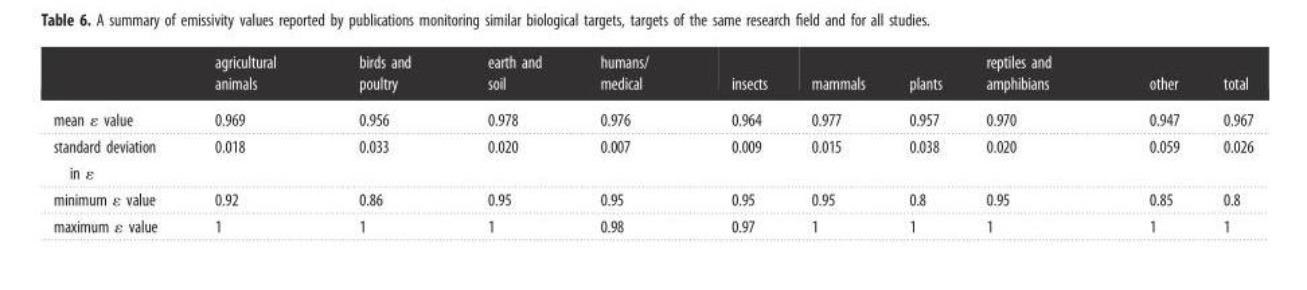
<table><thead><tr><td></td><td>agricultural animals</td><td>birds and poultry</td><td>earth and soil</td><td>humans/ medical</td><td>insects</td><td>mammals</td><td>plants</td><td>reptiles and amphibians</td><td>other</td><td>total</td></tr></thead><tbody><tr><td>mean 1 value</td><td>0.969</td><td>0.956</td><td>0.978</td><td>0.976</td><td>0.964</td><td>0.977</td><td>0.957</td><td>0.970</td><td>0.947</td><td>0.967</td></tr><tr><td>standard deviation in 1</td><td>0.018</td><td>0.033</td><td>0.020</td><td>0.007</td><td>0.009</td><td>0.015</td><td>0.038</td><td>0.020</td><td>0.059</td><td>0.026</td></tr><tr><td>minimum 1 value</td><td>0.92</td><td>0.86</td><td>0.95</td><td>0.95</td><td>0.95</td><td>0.95</td><td>0.8</td><td>0.95</td><td>0.85</td><td>0.8</td></tr><tr><td>maximum 1 value</td><td>1</td><td>1</td><td>1</td><td>0.98</td><td>0.97</td><td>1</td><td>1</td><td>1</td><td>1</td><td>1</td></tr></tbody></table>